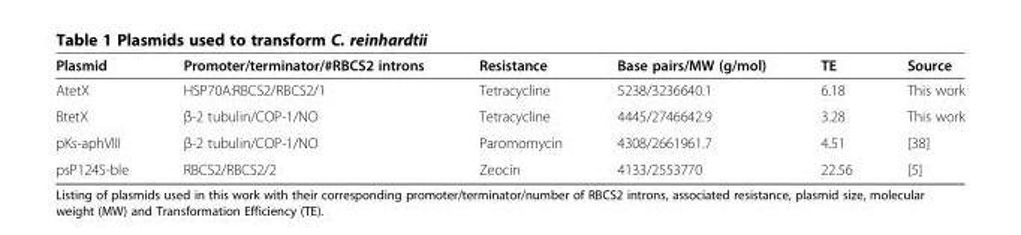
<table><thead><tr><td>Plasmid</td><td>Promoter/terminator/#RBCS2 introns</td><td>Resistance</td><td>Base pairs/MW (g/mol)</td><td>TE</td><td>Source</td></tr></thead><tbody><tr><td>AtetX</td><td>HSP70A:RBCS2/RBCS2/1</td><td>Tetracycline</td><td>5238/3236640.1</td><td>6.18</td><td>This work</td></tr><tr><td>BtetX</td><td>β-2 tubulin/COP-1/NO</td><td>Tetracycline</td><td>4445/2746642.9</td><td>3.28</td><td>This work</td></tr><tr><td>pKs-aphVIII</td><td>β-2 tubulin/COP-1/NO</td><td>Paromomycin</td><td>4308/2661961.7</td><td>4.51</td><td>[38]</td></tr><tr><td>psP124S-ble</td><td>RBCS2/RBCS2/2</td><td>Zeocin</td><td>4133/2553770</td><td>22.56</td><td>[5]</td></tr></tbody></table>